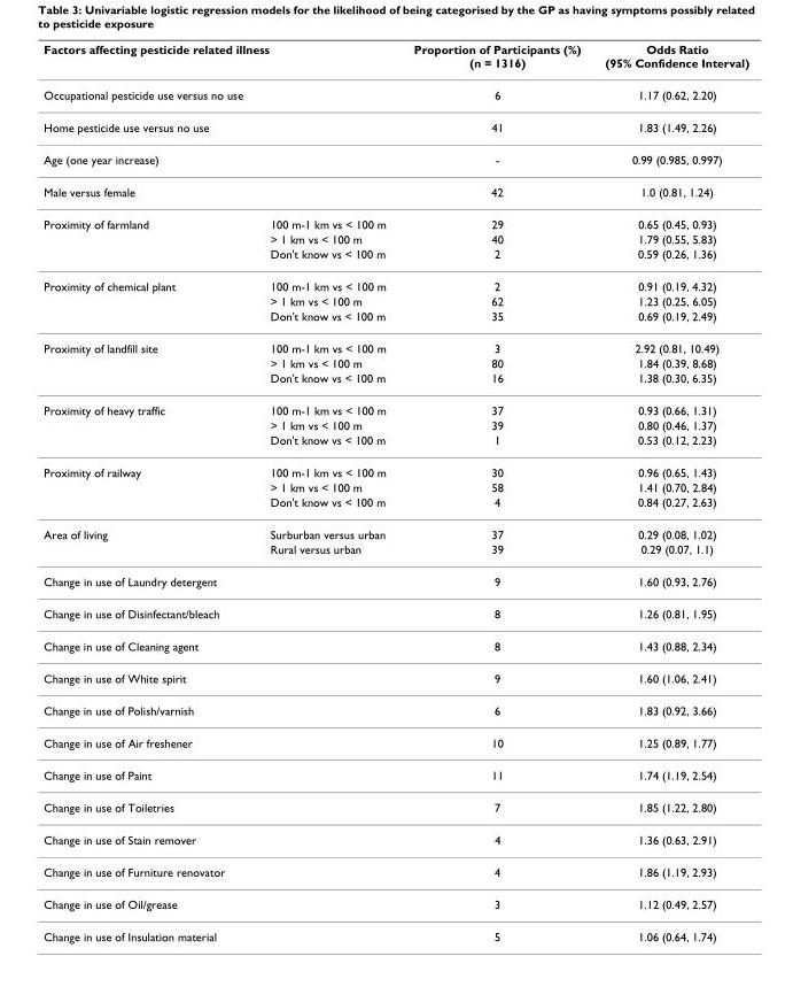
<table><thead><tr><td colspan="2">Factors affecting pesticide related illness</td><td rowspan="2">Proportion of Participants (%) (n = 1316) 6</td><td rowspan="2">Odds Ratio (95% Confidence Interval) 1.17 (0.62, 2.20)</td></tr><tr><td>Occupational pesticide use versus no use</td><td></td></tr></thead><tbody><tr><td>Home pesticide use versus no use</td><td></td><td>41</td><td>1.83 (1.49, 2.26)</td></tr><tr><td>Age (one year increase)</td><td></td><td>-</td><td>0.99 (0.985, 0.997)</td></tr><tr><td>Male versus female</td><td></td><td>42</td><td>1.0 (0.81, 1.24)</td></tr><tr><td rowspan="3">Proximity of farmland</td><td>100 m-1 km vs &lt; 100 m</td><td>29</td><td>0.65 (0.45, 0.93)</td></tr><tr><td>&gt; 1 km vs &lt; 100 m</td><td>40</td><td>1.79 (0.55, 5.83)</td></tr><tr><td>Don&#x27;t know vs &lt; 100 m</td><td>2</td><td>0.59 (0.26, 1.36)</td></tr><tr><td rowspan="3">Proximity of chemical plant</td><td>100 m-1 km vs &lt; 100 m</td><td>2</td><td>0.91 (0.19, 4.32)</td></tr><tr><td>&gt; 1 km vs &lt; 100 m</td><td>62</td><td>1.23 (0.25, 6.05)</td></tr><tr><td>Don&#x27;t know vs &lt; 100 m</td><td>35</td><td>0.69 (0.19, 2.49)</td></tr><tr><td rowspan="3">Proximity of landfill site</td><td>100 m-1 km vs &lt; 100 m</td><td>3</td><td>2.92 (0.81, 10.49)</td></tr><tr><td>&gt; 1 km vs &lt; 100 m</td><td>80</td><td>1.84 (0.39, 8.68)</td></tr><tr><td>Don&#x27;t know vs &lt; 100 m</td><td>16</td><td>1.38 (0.30, 6.35)</td></tr><tr><td rowspan="3">Proximity of heavy traffic</td><td>100 m-1 km vs &lt; 100 m</td><td>37</td><td>0.93 (0.66, 1.31)</td></tr><tr><td>&gt; 1 km vs &lt; 100 m</td><td>39</td><td>0.80 (0.46, 1.37)</td></tr><tr><td>Don&#x27;t know vs &lt; 100 m</td><td>1</td><td>0.53 (0.12, 2.23)</td></tr><tr><td rowspan="3">Proximity of railway</td><td>100 m-1 km vs &lt; 100 m</td><td>30</td><td>0.96 (0.65, 1.43)</td></tr><tr><td>&gt; 1 km vs &lt; 100 m</td><td>58</td><td>1.41 (0.70, 2.84)</td></tr><tr><td>Don&#x27;t know vs &lt; 100 m</td><td>4</td><td>0.84 (0.27, 2.63)</td></tr><tr><td rowspan="2">Area of living</td><td>Surburban versus urban</td><td>37</td><td>0.29 (0.08, 1.02)</td></tr><tr><td>Rural versus urban</td><td>39</td><td>0.29 (0.07, 1.1)</td></tr><tr><td>Change in use of Laundry detergent</td><td></td><td>9</td><td>1.60 (0.93, 2.76)</td></tr><tr><td>Change in use of Disinfectant/bleach</td><td></td><td>8</td><td>1.26 (0.81, 1.95)</td></tr><tr><td>Change in use of Cleaning agent</td><td></td><td>8</td><td>1.43 (0.88, 2.34)</td></tr><tr><td>Change in use of White spirit</td><td></td><td>9</td><td>1.60 (1.06, 2.41)</td></tr><tr><td>Change in use of Polish/varnish</td><td></td><td>6</td><td>1.83 (0.92, 3.66)</td></tr><tr><td>Change in use of Air freshener</td><td></td><td>10</td><td>1.25 (0.89, 1.77)</td></tr><tr><td>Change in use of Paint</td><td></td><td>11</td><td>1.74 (1.19, 2.54)</td></tr><tr><td>Change in use of Toiletries</td><td></td><td>7</td><td>1.85 (1.22, 2.80)</td></tr><tr><td>Change in use of Stain remover</td><td></td><td>4</td><td>1.36 (0.63, 2.91)</td></tr><tr><td>Change in use of Furniture renovator</td><td></td><td>4</td><td>1.86 (1.19, 2.93)</td></tr><tr><td>Change in use of Oil/grease</td><td></td><td>3</td><td>1.12 (0.49, 2.57)</td></tr><tr><td>Change in use of Insulation material</td><td></td><td>5</td><td>1.06 (0.64, 1.74)</td></tr></tbody></table>